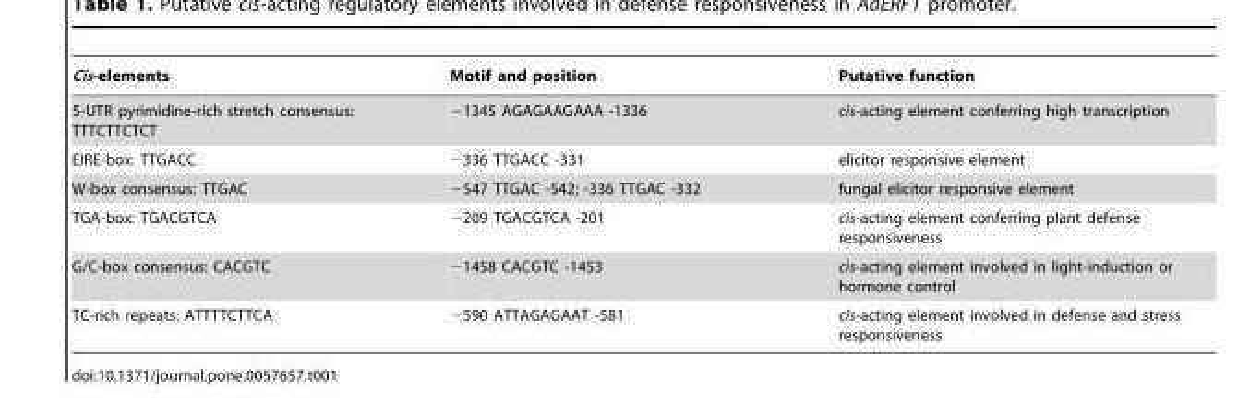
<table><thead><tr><td>Cis-elements</td><td>Motif and position</td><td>Putative function</td></tr></thead><tbody><tr><td>5-UTR pyrimidine-rich stretch consensus: TTTCTTCTCT</td><td>−1345 AGAGAAGAAA -1336</td><td>cis-acting element conferring high transcription</td></tr><tr><td>EIRE-box: TTGACC</td><td>−336 TTGACC -331</td><td>elicitor responsive element</td></tr><tr><td>W-box consensus: TTGAC</td><td>−547 TTGAC -542; -336 TTGAC -332</td><td>fungal elicitor responsive element</td></tr><tr><td>TGA-box: TGACGTCA</td><td>−209 TGACGTCA -201</td><td>cis-acting element conferring plant defense responsiveness</td></tr><tr><td>G/C-box consensus: CACGTC</td><td>−1458 CACGTC -1453</td><td>cis-acting element involved in light-induction or hormone control</td></tr><tr><td>TC-rich repeats: ATTTTCTTCA</td><td>−590 ATTAGAGAAT -581</td><td>cis-acting element involved in defense and stress responsiveness</td></tr></tbody></table>